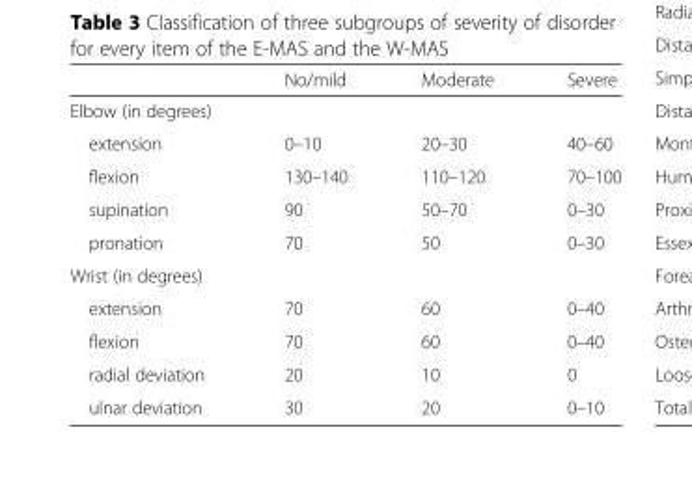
<table><thead><tr><td></td><td>No/mild</td><td>Moderate</td><td>Severe</td></tr></thead><tbody><tr><td colspan="4">Elbow (in degrees)</td></tr><tr><td>extension</td><td>0–10</td><td>20–30</td><td>40–60</td></tr><tr><td>flexion</td><td>130–140</td><td>110–120</td><td>70–100</td></tr><tr><td>supination</td><td>90</td><td>50–70</td><td>0–30</td></tr><tr><td>pronation</td><td>70</td><td>50</td><td>0–30</td></tr><tr><td colspan="4">Wrist (in degrees)</td></tr><tr><td>extension</td><td>70</td><td>60</td><td>0–40</td></tr><tr><td>flexion</td><td>70</td><td>60</td><td>0–40</td></tr><tr><td>radial deviation</td><td>20</td><td>10</td><td>0</td></tr><tr><td>ulnar deviation</td><td>30</td><td>20</td><td>0–10</td></tr></tbody></table>